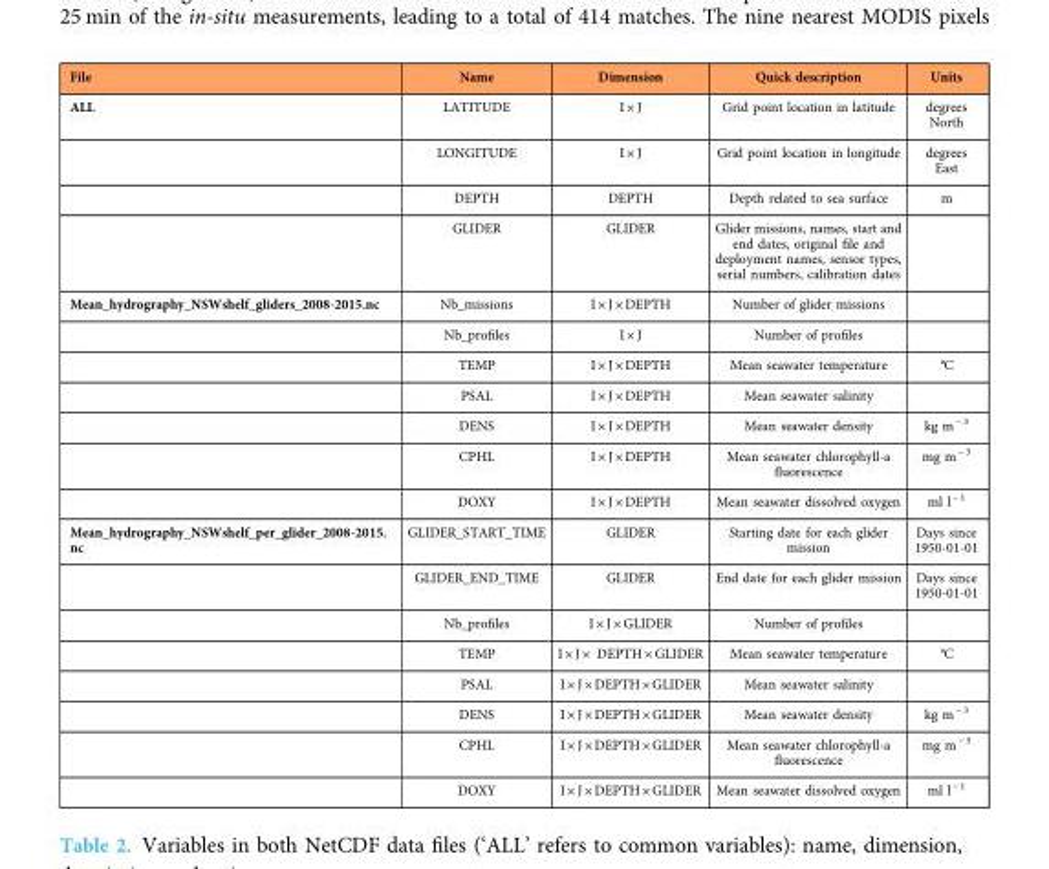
<table><thead><tr><td>File</td><td>Name</td><td>Dimension</td><td>Quick description</td><td>Units</td></tr></thead><tbody><tr><td rowspan="4">ALL</td><td>LATITUDE</td><td>I × J</td><td>Grid point location in latitude</td><td>degrees North</td></tr><tr><td>LONGITUDE</td><td>I × J</td><td>Grid point location in longitude</td><td>degrees East</td></tr><tr><td>DEPTH</td><td>DEPTH</td><td>Depth related to sea surface</td><td>m</td></tr><tr><td>GLIDER</td><td>GLIDER</td><td>Glider missions, names, start and end dates, original file and deployment names, sensor types, serial numbers, calibration dates</td><td></td></tr><tr><td rowspan="7">Mean_hydrography_NSWshelf_gliders_2008-2015.nc</td><td>Nb_missions</td><td>I × J × DEPTH</td><td>Number of glider missions</td><td></td></tr><tr><td>Nb_profiles</td><td>I × J</td><td>Number of profiles</td><td></td></tr><tr><td>TEMP</td><td>I × J × DEPTH</td><td>Mean seawater temperature</td><td>°C</td></tr><tr><td>PSAL</td><td>I × J × DEPTH</td><td>Mean seawater salinity</td><td></td></tr><tr><td>DENS</td><td>I × J × DEPTH</td><td>Mean seawater density</td><td>kg m <sup>− 3</sup></td></tr><tr><td>CPHL</td><td>I × J × DEPTH</td><td>Mean seawater chlorophyll-a fluorescence</td><td>mg m <sup>− 3</sup></td></tr><tr><td>DOXY</td><td>I × J × DEPTH</td><td>Mean seawater dissolved oxygen</td><td>ml l <sup>− 1</sup></td></tr><tr><td rowspan="8">Mean_hydrography_NSWshelf_per_glider_2008-2015. nc</td><td>GLIDER_START_TIME</td><td>GLIDER</td><td>Starting date for each glider mission</td><td>Days since 1950-01-01</td></tr><tr><td>GLIDER_END_TIME</td><td>GLIDER</td><td>End date for each glider mission</td><td>Days since 1950-01-01</td></tr><tr><td>Nb_profiles</td><td>I × J × GLIDER</td><td>Number of profiles</td><td></td></tr><tr><td>TEMP</td><td>I × J × DEPTH × GLIDER</td><td>Mean seawater temperature</td><td>°C</td></tr><tr><td>PSAL</td><td>I × J × DEPTH × GLIDER</td><td>Mean seawater salinity</td><td></td></tr><tr><td>DENS</td><td>I × J × DEPTH × GLIDER</td><td>Mean seawater density</td><td>kg m <sup>− 3</sup></td></tr><tr><td>CPHL</td><td>I × J × DEPTH × GLIDER</td><td>Mean seawater chlorophyll-a fluorescence</td><td>mg m <sup>− 3</sup></td></tr><tr><td>DOXY</td><td>I × J × DEPTH × GLIDER</td><td>Mean seawater dissolved oxygen</td><td>ml l <sup>− 1</sup></td></tr></tbody></table>